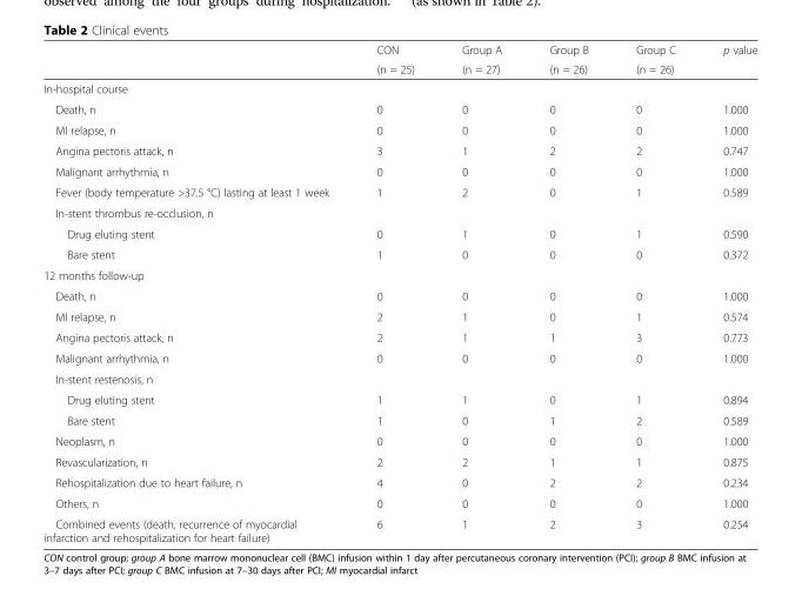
<table><thead><tr><td rowspan="2"></td><td rowspan="2">CON (n = 25)</td><td rowspan="2">Group A (n = 27)</td><td rowspan="2">Group B (n = 26)</td><td rowspan="2">Group C (n = 26)</td><td rowspan="2">p value</td></tr><tr></tr></thead><tbody><tr><td colspan="6">In-hospital course</td></tr><tr><td>Death, n</td><td>0</td><td>0</td><td>0</td><td>0</td><td>1.000</td></tr><tr><td>MI relapse, n</td><td>0</td><td>0</td><td>0</td><td>0</td><td>1.000</td></tr><tr><td>Angina pectoris attack, n</td><td>3</td><td>1</td><td>2</td><td>2</td><td>0.747</td></tr><tr><td>Malignant arrhythmia, n</td><td>0</td><td>0</td><td>0</td><td>0</td><td>1.000</td></tr><tr><td>Fever (body temperature &gt;37.5 °C) lasting at least 1 week</td><td>1</td><td>2</td><td>0</td><td>1</td><td>0.589</td></tr><tr><td colspan="6">In-stent thrombus re-occlusion, n</td></tr><tr><td>Drug eluting stent</td><td>0</td><td>1</td><td>0</td><td>1</td><td>0.590</td></tr><tr><td>Bare stent</td><td>1</td><td>0</td><td>0</td><td>0</td><td>0.372</td></tr><tr><td colspan="6">12 months follow-up</td></tr><tr><td>Death, n</td><td>0</td><td>0</td><td>0</td><td>0</td><td>1.000</td></tr><tr><td>MI relapse, n</td><td>2</td><td>1</td><td>0</td><td>1</td><td>0.574</td></tr><tr><td>Angina pectoris attack, n</td><td>2</td><td>1</td><td>1</td><td>3</td><td>0.773</td></tr><tr><td>Malignant arrhythmia, n</td><td>0</td><td>0</td><td>0</td><td>0</td><td>1.000</td></tr><tr><td colspan="6">In-stent restenosis, n</td></tr><tr><td>Drug eluting stent</td><td>1</td><td>1</td><td>0</td><td>1</td><td>0.894</td></tr><tr><td>Bare stent</td><td>1</td><td>0</td><td>1</td><td>2</td><td>0.589</td></tr><tr><td>Neoplasm, n</td><td>0</td><td>0</td><td>0</td><td>0</td><td>1.000</td></tr><tr><td>Revascularization, n</td><td>2</td><td>2</td><td>1</td><td>1</td><td>0.875</td></tr><tr><td>Rehospitalization due to heart failure, n</td><td>4</td><td>0</td><td>2</td><td>2</td><td>0.234</td></tr><tr><td>Others, n</td><td>0</td><td>0</td><td>0</td><td>0</td><td>1.000</td></tr><tr><td>Combined events (death, recurrence of myocardial infarction and rehospitalization for heart failure)</td><td>6</td><td>1</td><td>2</td><td>3</td><td>0.254</td></tr></tbody></table>